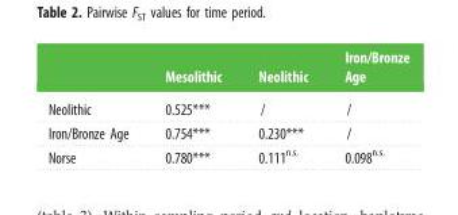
<table><thead><tr><td></td><td>Mesolithic</td><td>Neolithic</td><td>Iron/Bronze Age</td></tr></thead><tbody><tr><td>Neolithic</td><td>0.525***</td><td>/</td><td>/</td></tr><tr><td>Iron/Bronze Age</td><td>0.754***</td><td>0.230***</td><td>/</td></tr><tr><td>Norse</td><td>0.780***</td><td>0.111<sup>n.s.</sup></td><td>0.098<sup>n.s.</sup></td></tr></tbody></table>